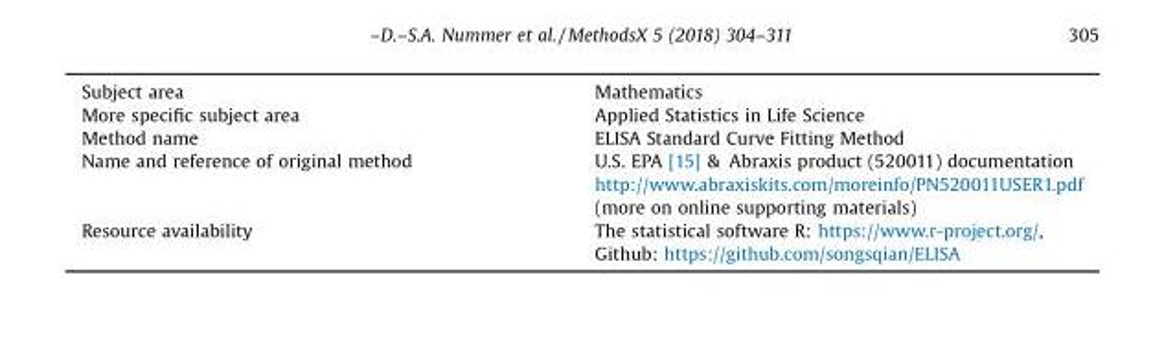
<table><tbody><tr><td>Subject area</td><td>Mathematics</td></tr><tr><td>More specific subject area</td><td>Applied Statistics in Life Science</td></tr><tr><td>Method name</td><td>ELISA Standard Curve Fitting Method</td></tr><tr><td rowspan="3">Name and reference of original method</td><td>U.S. EPA [15] &amp; Abraxis product (520011) documentation</td></tr><tr><td>http://www.abraxiskits.com/moreinfo/PN520011USER1.pdf</td></tr><tr><td>(more on online supporting materials)</td></tr><tr><td rowspan="2">Resource availability</td><td>The statistical software R: https://www.r-project.org/,</td></tr><tr><td>Github: https://github.com/songsqian/ELISA</td></tr></tbody></table>